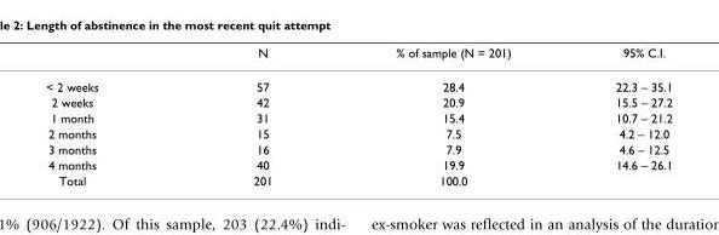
<table><thead><tr><td></td><td>N</td><td>% of sample (N = 201)</td><td>95% C.I.</td></tr></thead><tbody><tr><td>&lt; 2 weeks</td><td>57</td><td>28.4</td><td>22.3 – 35.1</td></tr><tr><td>2 weeks</td><td>42</td><td>20.9</td><td>15.5 – 27.2</td></tr><tr><td>1 month</td><td>31</td><td>15.4</td><td>10.7 – 21.2</td></tr><tr><td>2 months</td><td>15</td><td>7.5</td><td>4.2 – 12.0</td></tr><tr><td>3 months</td><td>16</td><td>7.9</td><td>4.6 – 12.5</td></tr><tr><td>4 months</td><td>40</td><td>19.9</td><td>14.6 – 26.1</td></tr><tr><td>Total</td><td>201</td><td>100.0</td><td></td></tr></tbody></table>